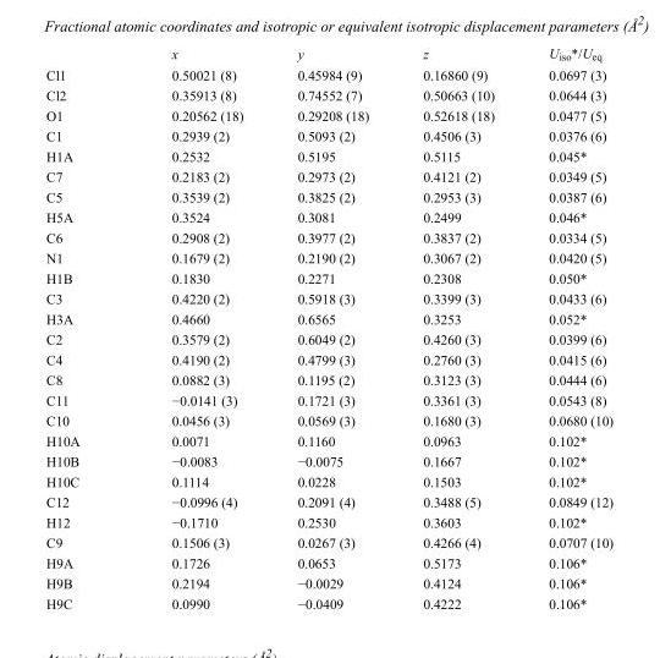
<table><thead><tr><td></td><td>x</td><td>y</td><td>z</td><td>U<sub>iso</sub>*/U<sub>eq</sub></td></tr></thead><tbody><tr><td>Cl1</td><td>0.50021 (8)</td><td>0.45984 (9)</td><td>0.16860 (9)</td><td>0.0697 (3)</td></tr><tr><td>Cl2</td><td>0.35913 (8)</td><td>0.74552 (7)</td><td>0.50663 (10)</td><td>0.0644 (3)</td></tr><tr><td>O1</td><td>0.20562 (18)</td><td>0.29208 (18)</td><td>0.52618 (18)</td><td>0.0477 (5)</td></tr><tr><td>C1</td><td>0.2939 (2)</td><td>0.5093 (2)</td><td>0.4506 (3)</td><td>0.0376 (6)</td></tr><tr><td>H1A</td><td>0.2532</td><td>0.5195</td><td>0.5115</td><td>0.045*</td></tr><tr><td>C7</td><td>0.2183 (2)</td><td>0.2973 (2)</td><td>0.4121 (2)</td><td>0.0349 (5)</td></tr><tr><td>C5</td><td>0.3539 (2)</td><td>0.3825 (2)</td><td>0.2953 (3)</td><td>0.0387 (6)</td></tr><tr><td>H5A</td><td>0.3524</td><td>0.3081</td><td>0.2499</td><td>0.046*</td></tr><tr><td>C6</td><td>0.2908 (2)</td><td>0.3977 (2)</td><td>0.3837 (2)</td><td>0.0334 (5)</td></tr><tr><td>N1</td><td>0.1679 (2)</td><td>0.2190 (2)</td><td>0.3067 (2)</td><td>0.0420 (5)</td></tr><tr><td>H1B</td><td>0.1830</td><td>0.2271</td><td>0.2308</td><td>0.050*</td></tr><tr><td>C3</td><td>0.4220 (2)</td><td>0.5918 (3)</td><td>0.3399 (3)</td><td>0.0433 (6)</td></tr><tr><td>H3A</td><td>0.4660</td><td>0.6565</td><td>0.3253</td><td>0.052*</td></tr><tr><td>C2</td><td>0.3579 (2)</td><td>0.6049 (2)</td><td>0.4260 (3)</td><td>0.0399 (6)</td></tr><tr><td>C4</td><td>0.4190 (2)</td><td>0.4799 (3)</td><td>0.2760 (3)</td><td>0.0415 (6)</td></tr><tr><td>C8</td><td>0.0882 (3)</td><td>0.1195 (2)</td><td>0.3123 (3)</td><td>0.0444 (6)</td></tr><tr><td>C11</td><td>−0.0141 (3)</td><td>0.1721 (3)</td><td>0.3361 (3)</td><td>0.0543 (8)</td></tr><tr><td>C10</td><td>0.0456 (3)</td><td>0.0569 (3)</td><td>0.1680 (3)</td><td>0.0680 (10)</td></tr><tr><td>H10A</td><td>0.0071</td><td>0.1160</td><td>0.0963</td><td>0.102*</td></tr><tr><td>H10B</td><td>−0.0083</td><td>−0.0075</td><td>0.1667</td><td>0.102*</td></tr><tr><td>H10C</td><td>0.1114</td><td>0.0228</td><td>0.1503</td><td>0.102*</td></tr><tr><td>C12</td><td>−0.0996 (4)</td><td>0.2091 (4)</td><td>0.3488 (5)</td><td>0.0849 (12)</td></tr><tr><td>H12</td><td>−0.1710</td><td>0.2530</td><td>0.3603</td><td>0.102*</td></tr><tr><td>C9</td><td>0.1506 (3)</td><td>0.0267 (3)</td><td>0.4266 (4)</td><td>0.0707 (10)</td></tr><tr><td>H9A</td><td>0.1726</td><td>0.0653</td><td>0.5173</td><td>0.106*</td></tr><tr><td>H9B</td><td>0.2194</td><td>−0.0029</td><td>0.4124</td><td>0.106*</td></tr><tr><td>H9C</td><td>0.0990</td><td>−0.0409</td><td>0.4222</td><td>0.106*</td></tr></tbody></table>